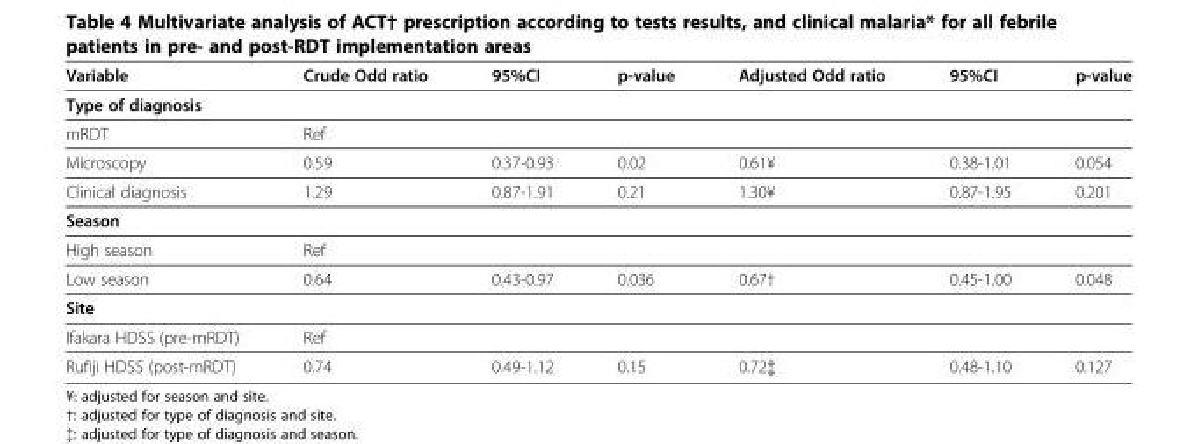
<table><thead><tr><td>Variable</td><td>Crude Odd ratio</td><td>95%CI</td><td>p-value</td><td>Adjusted Odd ratio</td><td>95%CI</td><td>p-value</td></tr></thead><tbody><tr><td colspan="7">Type of diagnosis</td></tr><tr><td>mRDT</td><td>Ref</td><td></td><td></td><td></td><td></td><td></td></tr><tr><td>Microscopy</td><td>0.59</td><td>0.37-0.93</td><td>0.02</td><td>0.61¥</td><td>0.38-1.01</td><td>0.054</td></tr><tr><td>Clinical diagnosis</td><td>1.29</td><td>0.87-1.91</td><td>0.21</td><td>1.30¥</td><td>0.87-1.95</td><td>0.201</td></tr><tr><td colspan="7">Season</td></tr><tr><td>High season</td><td>Ref</td><td></td><td></td><td></td><td></td><td></td></tr><tr><td>Low season</td><td>0.64</td><td>0.43-0.97</td><td>0.036</td><td>0.67†</td><td>0.45-1.00</td><td>0.048</td></tr><tr><td colspan="7">Site</td></tr><tr><td>Ifakara HDSS (pre-mRDT)</td><td>Ref</td><td></td><td></td><td></td><td></td><td></td></tr><tr><td>Rufiji HDSS (post-mRDT)</td><td>0.74</td><td>0.49-1.12</td><td>0.15</td><td>0.72‡</td><td>0.48-1.10</td><td>0.127</td></tr></tbody></table>